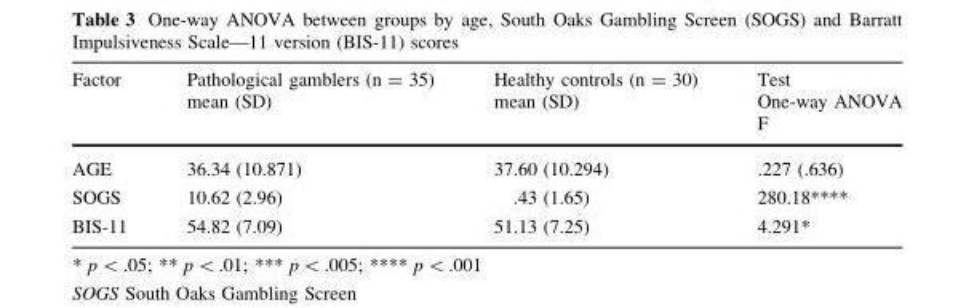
<table><thead><tr><td>Factor</td><td>Pathological gamblers (n = 35) mean (SD)</td><td>Healthy controls (n = 30) mean (SD)</td><td>Test One-way ANOVA F</td></tr></thead><tbody><tr><td>AGE</td><td>36.34 (10.871)</td><td>37.60 (10.294)</td><td>.227 (.636)</td></tr><tr><td>SOGS</td><td>10.62 (2.96)</td><td>.43 (1.65)</td><td>280.18****</td></tr><tr><td>BIS-11</td><td>54.82 (7.09)</td><td>51.13 (7.25)</td><td>4.291*</td></tr></tbody></table>